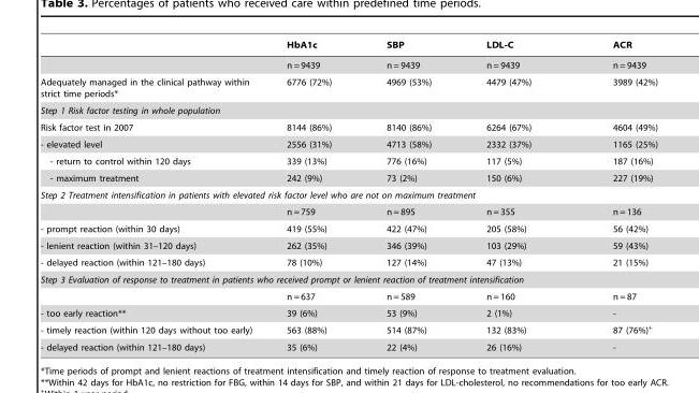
<table><thead><tr><td></td><td>HbA1c</td><td>SBP</td><td>LDL-C</td><td>ACR</td></tr></thead><tbody><tr><td></td><td>n = 9439</td><td>n = 9439</td><td>n = 9439</td><td>n = 9439</td></tr><tr><td>Adequately managed in the clinical pathway within strict time periods*</td><td>6776 (72%)</td><td>4969 (53%)</td><td>4479 (47%)</td><td>3989 (42%)</td></tr><tr><td colspan="5">Step 1 Risk factor testing in whole population</td></tr><tr><td>Risk factor test in 2007</td><td>8144 (86%)</td><td>8140 (86%)</td><td>6264 (67%)</td><td>4604 (49%)</td></tr><tr><td>- elevated level</td><td>2556 (31%)</td><td>4713 (58%)</td><td>2332 (37%)</td><td>1165 (25%)</td></tr><tr><td>- return to control within 120 days</td><td>339 (13%)</td><td>776 (16%)</td><td>117 (5%)</td><td>187 (16%)</td></tr><tr><td>- maximum treatment</td><td>242 (9%)</td><td>73 (2%)</td><td>150 (6%)</td><td>227 (19%)</td></tr><tr><td colspan="5">Step 2 Treatment intensification in patients with elevated risk factor level who are not on maximum treatment</td></tr><tr><td></td><td>n = 759</td><td>n = 895</td><td>n = 355</td><td>n = 136</td></tr><tr><td>- prompt reaction (within 30 days)</td><td>419 (55%)</td><td>422 (47%)</td><td>205 (58%)</td><td>56 (42%)</td></tr><tr><td>- lenient reaction (within 31–120 days)</td><td>262 (35%)</td><td>346 (39%)</td><td>103 (29%)</td><td>59 (43%)</td></tr><tr><td>- delayed reaction (within 121–180 days)</td><td>78 (10%)</td><td>127 (14%)</td><td>47 (13%)</td><td>21 (15%)</td></tr><tr><td colspan="5">Step 3 Evaluation of response to treatment in patients who received prompt or lenient reaction of treatment intensification</td></tr><tr><td></td><td>n = 637</td><td>n = 589</td><td>n = 160</td><td>n = 87</td></tr><tr><td>- too early reaction**</td><td>39 (6%)</td><td>53 (9%)</td><td>2 (1%)</td><td>-</td></tr><tr><td>- timely reaction (within 120 days without too early)</td><td>563 (88%)</td><td>514 (87%)</td><td>132 (83%)</td><td>87 (76%)+</td></tr><tr><td>- delayed reaction (within 121–180 days)</td><td>35 (6%)</td><td>22 (4%)</td><td>26 (16%)</td><td>-</td></tr></tbody></table>